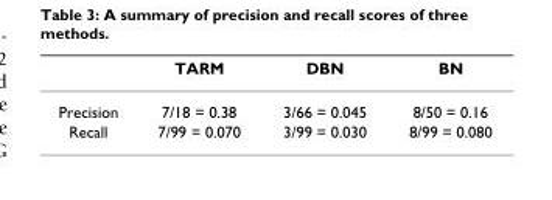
<table><thead><tr><td></td><td>TARM</td><td>DBN</td><td>BN</td></tr></thead><tbody><tr><td>Precision</td><td>7/18 = 0.38</td><td>3/66 = 0.045</td><td>8/50 = 0.16</td></tr><tr><td>Recall</td><td>7/99 = 0.070</td><td>3/99 = 0.030</td><td>8/99 = 0.080</td></tr></tbody></table>